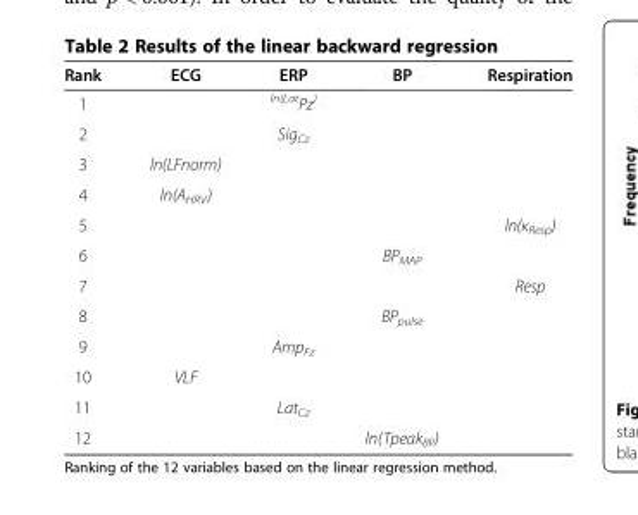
<table><thead><tr><td>Rank</td><td>ECG</td><td>ERP</td><td>BP</td><td>Respiration</td></tr></thead><tbody><tr><td>1</td><td></td><td><sup>ln(Lat</sup>Pz<sup>)</sup></td><td></td><td></td></tr><tr><td>2</td><td></td><td>Sig<sub>Cz</sub></td><td></td><td></td></tr><tr><td>3</td><td>ln(LFnorm)</td><td></td><td></td><td></td></tr><tr><td>4</td><td>ln(A<sub>HRV</sub>)</td><td></td><td></td><td></td></tr><tr><td>5</td><td></td><td></td><td></td><td>ln(κ<sub>Resp</sub>)</td></tr><tr><td>6</td><td></td><td></td><td>BP<sub>MAP</sub></td><td></td></tr><tr><td>7</td><td></td><td></td><td></td><td>Resp</td></tr><tr><td>8</td><td></td><td></td><td>BP<sub>pulse</sub></td><td></td></tr><tr><td>9</td><td></td><td>Amp<sub>Fz</sub></td><td></td><td></td></tr><tr><td>10</td><td>VLF</td><td></td><td></td><td></td></tr><tr><td>11</td><td></td><td>Lat<sub>Cz</sub></td><td></td><td></td></tr><tr><td>12</td><td></td><td></td><td>ln(Tpeak<sub>BP</sub>)</td><td></td></tr></tbody></table>